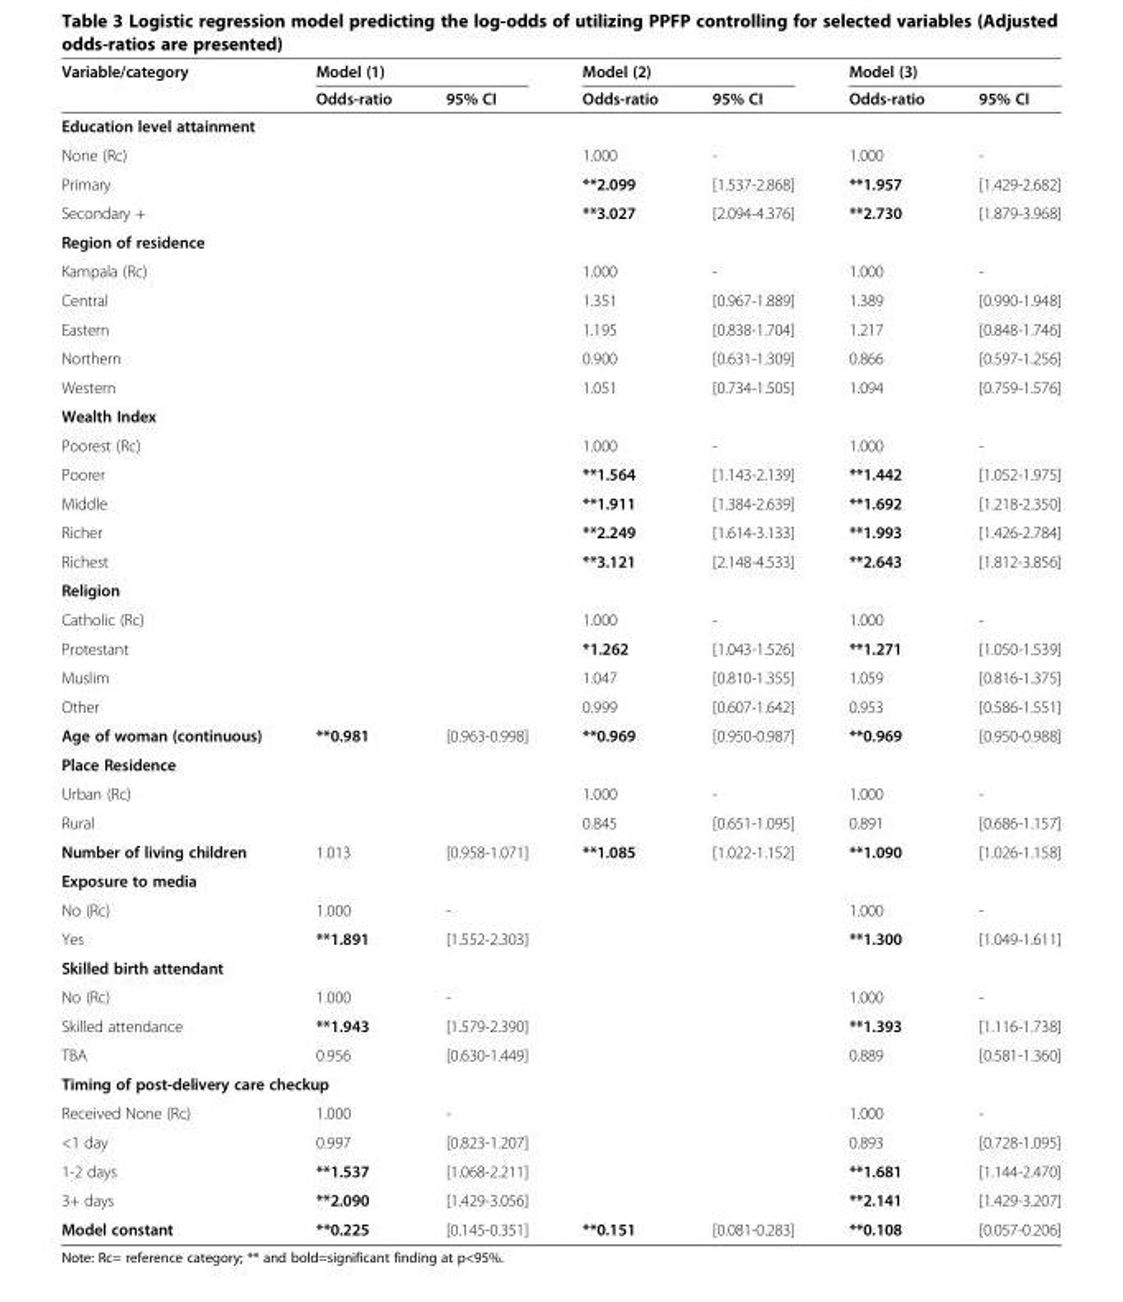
<table><thead><tr><td rowspan="2">Variable/category</td><td colspan="2">Model (1)</td><td colspan="2">Model (2)</td><td colspan="2">Model (3)</td></tr><tr><td>Odds-ratio</td><td>95% CI</td><td>Odds-ratio</td><td>95% CI</td><td>Odds-ratio</td><td>95% CI</td></tr></thead><tbody><tr><td colspan="7">Education level attainment</td></tr><tr><td>None (Rc)</td><td></td><td></td><td>1.000</td><td>-</td><td>1.000</td><td>-</td></tr><tr><td>Primary</td><td></td><td></td><td>**2.099</td><td>[1.537-2.868]</td><td>**1.957</td><td>[1.429-2.682]</td></tr><tr><td>Secondary +</td><td></td><td></td><td>**3.027</td><td>[2.094-4.376]</td><td>**2.730</td><td>[1.879-3.968]</td></tr><tr><td colspan="7">Region of residence</td></tr><tr><td>Kampala (Rc)</td><td></td><td></td><td>1.000</td><td>-</td><td>1.000</td><td>-</td></tr><tr><td>Central</td><td></td><td></td><td>1.351</td><td>[0.967-1.889]</td><td>1.389</td><td>[0.990-1.948]</td></tr><tr><td>Eastern</td><td></td><td></td><td>1.195</td><td>[0.838-1.704]</td><td>1.217</td><td>[0.848-1.746]</td></tr><tr><td>Northern</td><td></td><td></td><td>0.900</td><td>[0.631-1.309]</td><td>0.866</td><td>[0.597-1.256]</td></tr><tr><td>Western</td><td></td><td></td><td>1.051</td><td>[0.734-1.505]</td><td>1.094</td><td>[0.759-1.576]</td></tr><tr><td colspan="7">Wealth Index</td></tr><tr><td>Poorest (Rc)</td><td></td><td></td><td>1.000</td><td>-</td><td>1.000</td><td>-</td></tr><tr><td>Poorer</td><td></td><td></td><td>**1.564</td><td>[1.143-2.139]</td><td>**1.442</td><td>[1.052-1.975]</td></tr><tr><td>Middle</td><td></td><td></td><td>**1.911</td><td>[1.384-2.639]</td><td>**1.692</td><td>[1.218-2.350]</td></tr><tr><td>Richer</td><td></td><td></td><td>**2.249</td><td>[1.614-3.133]</td><td>**1.993</td><td>[1.426-2.784]</td></tr><tr><td>Richest</td><td></td><td></td><td>**3.121</td><td>[2.148-4.533]</td><td>**2.643</td><td>[1.812-3.856]</td></tr><tr><td colspan="7">Religion</td></tr><tr><td>Catholic (Rc)</td><td></td><td></td><td>1.000</td><td>-</td><td>1.000</td><td>-</td></tr><tr><td>Protestant</td><td></td><td></td><td>*1.262</td><td>[1.043-1.526]</td><td>**1.271</td><td>[1.050-1.539]</td></tr><tr><td>Muslim</td><td></td><td></td><td>1.047</td><td>[0.810-1.355]</td><td>1.059</td><td>[0.816-1.375]</td></tr><tr><td>Other</td><td></td><td></td><td>0.999</td><td>[0.607-1.642]</td><td>0.953</td><td>[0.586-1.551]</td></tr><tr><td>Age of woman (continuous)</td><td>**0.981</td><td>[0.963-0.998]</td><td>**0.969</td><td>[0.950-0.987]</td><td>**0.969</td><td>[0.950-0.988]</td></tr><tr><td colspan="7">Place Residence</td></tr><tr><td>Urban (Rc)</td><td></td><td></td><td>1.000</td><td>-</td><td>1.000</td><td>-</td></tr><tr><td>Rural</td><td></td><td></td><td>0.845</td><td>[0.651-1.095]</td><td>0.891</td><td>[0.686-1.157]</td></tr><tr><td>Number of living children</td><td>1.013</td><td>[0.958-1.071]</td><td>**1.085</td><td>[1.022-1.152]</td><td>**1.090</td><td>[1.026-1.158]</td></tr><tr><td colspan="7">Exposure to media</td></tr><tr><td>No (Rc)</td><td>1.000</td><td>-</td><td></td><td></td><td>1.000</td><td>-</td></tr><tr><td>Yes</td><td>**1.891</td><td>[1.552-2.303]</td><td></td><td></td><td>**1.300</td><td>[1.049-1.611]</td></tr><tr><td colspan="7">Skilled birth attendant</td></tr><tr><td>No (Rc)</td><td>1.000</td><td>-</td><td></td><td></td><td>1.000</td><td>-</td></tr><tr><td>Skilled attendance</td><td>**1.943</td><td>[1.579-2.390]</td><td></td><td></td><td>**1.393</td><td>[1.116-1.738]</td></tr><tr><td>TBA</td><td>0.956</td><td>[0.630-1.449]</td><td></td><td></td><td>0.889</td><td>[0.581-1.360]</td></tr><tr><td colspan="7">Timing of post-delivery care checkup</td></tr><tr><td>Received None (Rc)</td><td>1.000</td><td>-</td><td></td><td></td><td>1.000</td><td>-</td></tr><tr><td>&lt;1 day</td><td>0.997</td><td>[0.823-1.207]</td><td></td><td></td><td>0.893</td><td>[0.728-1.095]</td></tr><tr><td>1-2 days</td><td>**1.537</td><td>[1.068-2.211]</td><td></td><td></td><td>**1.681</td><td>[1.144-2.470]</td></tr><tr><td>3+ days</td><td>**2.090</td><td>[1.429-3.056]</td><td></td><td></td><td>**2.141</td><td>[1.429-3.207]</td></tr><tr><td>Model constant</td><td>**0.225</td><td>[0.145-0.351]</td><td>**0.151</td><td>[0.081-0.283]</td><td>**0.108</td><td>[0.057-0.206]</td></tr></tbody></table>